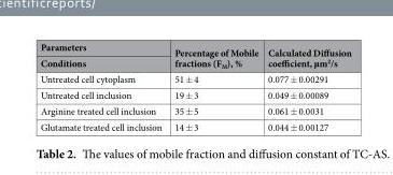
<table><thead><tr><td rowspan="2">Parameters Conditions</td><td rowspan="2">Percentage of Mobile fractions (F<sub>M</sub>), %</td><td rowspan="2">Calculated Diffusion coefficient, µm<sup>2</sup>/s</td></tr><tr></tr></thead><tbody><tr><td>Untreated cell cytoplasm</td><td>51 ± 4</td><td>0.077 ± 0.00291</td></tr><tr><td>Untreated cell inclusion</td><td>19 ± 3</td><td>0.049 ± 0.00089</td></tr><tr><td>Arginine treated cell inclusion</td><td>35 ± 5</td><td>0.061 ± 0.0031</td></tr><tr><td>Glutamate treated cell inclusion</td><td>14 ± 3</td><td>0.044 ± 0.00127</td></tr></tbody></table>